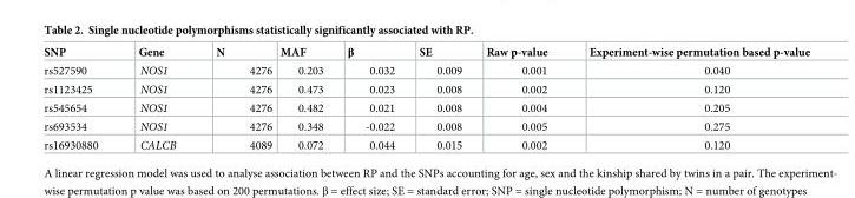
<table><thead><tr><td>SNP</td><td>Gene</td><td>N</td><td>MAF</td><td>β</td><td>SE</td><td>Raw p-value</td><td>Experiment-wise permutation based p-value</td></tr></thead><tbody><tr><td>rs527590</td><td>NOS1</td><td>4276</td><td>0.203</td><td>0.032</td><td>0.009</td><td>0.001</td><td>0.040</td></tr><tr><td>rs1123425</td><td>NOS1</td><td>4276</td><td>0.473</td><td>0.023</td><td>0.008</td><td>0.002</td><td>0.120</td></tr><tr><td>rs545654</td><td>NOS1</td><td>4276</td><td>0.482</td><td>0.021</td><td>0.008</td><td>0.004</td><td>0.205</td></tr><tr><td>rs693534</td><td>NOS1</td><td>4276</td><td>0.348</td><td>-0.022</td><td>0.008</td><td>0.005</td><td>0.275</td></tr><tr><td>rs16930880</td><td>CALCB</td><td>4089</td><td>0.072</td><td>0.044</td><td>0.015</td><td>0.002</td><td>0.120</td></tr></tbody></table>